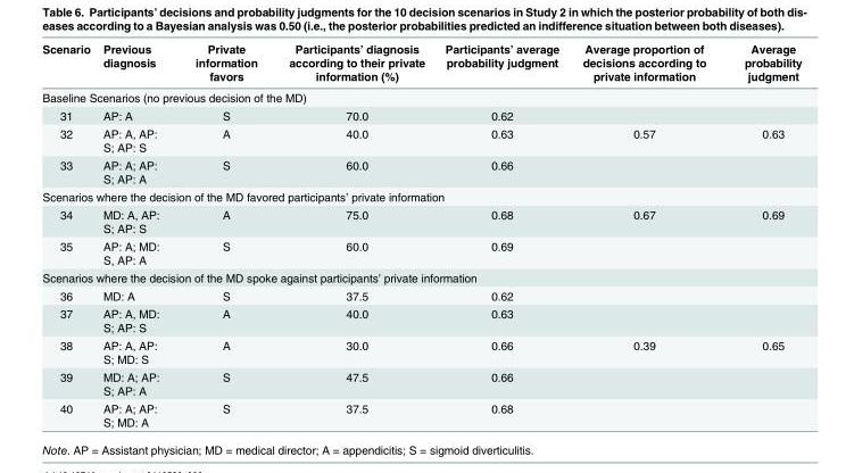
<table><thead><tr><td>Scenario</td><td>Previous diagnosis</td><td>Private information favors</td><td>Participants’ diagnosis according to their private information (%)</td><td>Participants’ average probability judgment</td><td>Average proportion of decisions according to private information</td><td>Average probability judgment</td></tr></thead><tbody><tr><td colspan="7">Baseline Scenarios (no previous decision of the MD)</td></tr><tr><td>31</td><td>AP: A</td><td>S</td><td>70.0</td><td>0.62</td><td></td><td></td></tr><tr><td>32</td><td>AP: A, AP: S; AP: S</td><td>A</td><td>40.0</td><td>0.63</td><td>0.57</td><td>0.63</td></tr><tr><td>33</td><td>AP: A; AP: S; AP: A</td><td>S</td><td>60.0</td><td>0.66</td><td></td><td></td></tr><tr><td colspan="7">Scenarios where the decision of the MD favored participants’ private information</td></tr><tr><td>34</td><td>MD: A, AP: S; AP: S</td><td>A</td><td>75.0</td><td>0.68</td><td>0.67</td><td>0.69</td></tr><tr><td>35</td><td>AP: A; MD: S, AP: A</td><td>S</td><td>60.0</td><td>0.69</td><td></td><td></td></tr><tr><td colspan="7">Scenarios where the decision of the MD spoke against participants’ private information</td></tr><tr><td>36</td><td>MD: A</td><td>S</td><td>37.5</td><td>0.62</td><td></td><td></td></tr><tr><td>37</td><td>AP: A, MD: S; AP: S</td><td>A</td><td>40.0</td><td>0.63</td><td></td><td></td></tr><tr><td>38</td><td>AP: A, AP: S; MD: S</td><td>A</td><td>30.0</td><td>0.66</td><td>0.39</td><td>0.65</td></tr><tr><td>39</td><td>MD: A; AP: S; AP: A</td><td>S</td><td>47.5</td><td>0.66</td><td></td><td></td></tr><tr><td>40</td><td>AP: A; AP: S; MD: A</td><td>S</td><td>37.5</td><td>0.68</td><td></td><td></td></tr></tbody></table>